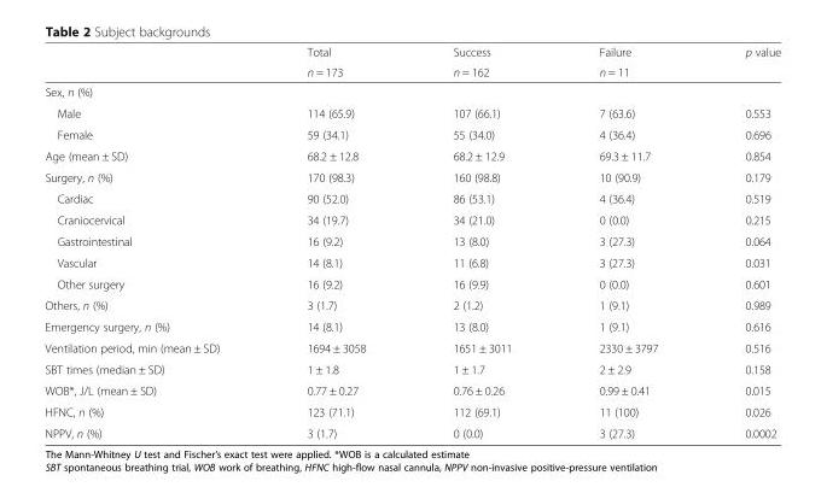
<table><thead><tr><td rowspan="2"></td><td rowspan="2">Total n = 173</td><td rowspan="2">Success n = 162</td><td rowspan="2">Failure n = 11</td><td rowspan="2">p value</td></tr><tr></tr></thead><tbody><tr><td colspan="5">Sex, n (%)</td></tr><tr><td>Male</td><td>114 (65.9)</td><td>107 (66.1)</td><td>7 (63.6)</td><td>0.553</td></tr><tr><td>Female</td><td>59 (34.1)</td><td>55 (34.0)</td><td>4 (36.4)</td><td>0.696</td></tr><tr><td>Age (mean ± SD)</td><td>68.2 ± 12.8</td><td>68.2 ± 12.9</td><td>69.3 ± 11.7</td><td>0.854</td></tr><tr><td>Surgery, n (%)</td><td>170 (98.3)</td><td>160 (98.8)</td><td>10 (90.9)</td><td>0.179</td></tr><tr><td>Cardiac</td><td>90 (52.0)</td><td>86 (53.1)</td><td>4 (36.4)</td><td>0.519</td></tr><tr><td>Craniocervical</td><td>34 (19.7)</td><td>34 (21.0)</td><td>0 (0.0)</td><td>0.215</td></tr><tr><td>Gastrointestinal</td><td>16 (9.2)</td><td>13 (8.0)</td><td>3 (27.3)</td><td>0.064</td></tr><tr><td>Vascular</td><td>14 (8.1)</td><td>11 (6.8)</td><td>3 (27.3)</td><td>0.031</td></tr><tr><td>Other surgery</td><td>16 (9.2)</td><td>16 (9.9)</td><td>0 (0.0)</td><td>0.601</td></tr><tr><td>Others, n (%)</td><td>3 (1.7)</td><td>2 (1.2)</td><td>1 (9.1)</td><td>0.989</td></tr><tr><td>Emergency surgery, n (%)</td><td>14 (8.1)</td><td>13 (8.0)</td><td>1 (9.1)</td><td>0.616</td></tr><tr><td>Ventilation period, min (mean ± SD)</td><td>1694 ± 3058</td><td>1651 ± 3011</td><td>2330 ± 3797</td><td>0.516</td></tr><tr><td>SBT times (median ± SD)</td><td>1 ± 1.8</td><td>1 ± 1.7</td><td>2 ± 2.9</td><td>0.158</td></tr><tr><td>WOB*, J/L (mean ± SD)</td><td>0.77 ± 0.27</td><td>0.76 ± 0.26</td><td>0.99 ± 0.41</td><td>0.015</td></tr><tr><td>HFNC, n (%)</td><td>123 (71.1)</td><td>112 (69.1)</td><td>11 (100)</td><td>0.026</td></tr><tr><td>NPPV, n (%)</td><td>3 (1.7)</td><td>0 (0.0)</td><td>3 (27.3)</td><td>0.0002</td></tr></tbody></table>